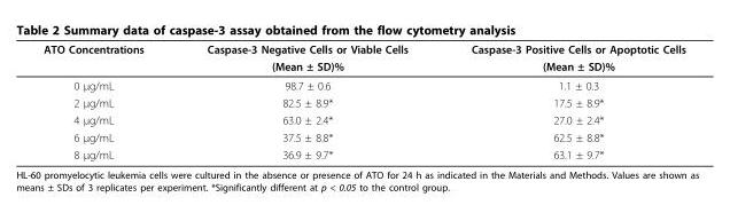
<table><thead><tr><td rowspan="2">ATO Concentrations</td><td rowspan="2">Caspase-3 Negative Cells or Viable Cells (Mean ± SD)%</td><td rowspan="2">Caspase-3 Positive Cells or Apoptotic Cells (Mean ± SD)%</td></tr><tr></tr></thead><tbody><tr><td>0 μg/mL</td><td>98.7 ± 0.6</td><td>1.1 ± 0.3</td></tr><tr><td>2 μg/mL</td><td>82.5 ± 8.9*</td><td>17.5 ± 8.9*</td></tr><tr><td>4 μg/mL</td><td>63.0 ± 2.4*</td><td>27.0 ± 2.4*</td></tr><tr><td>6 μg/mL</td><td>37.5 ± 8.8*</td><td>62.5 ± 8.8*</td></tr><tr><td>8 μg/mL</td><td>36.9 ± 9.7*</td><td>63.1 ± 9.7*</td></tr></tbody></table>